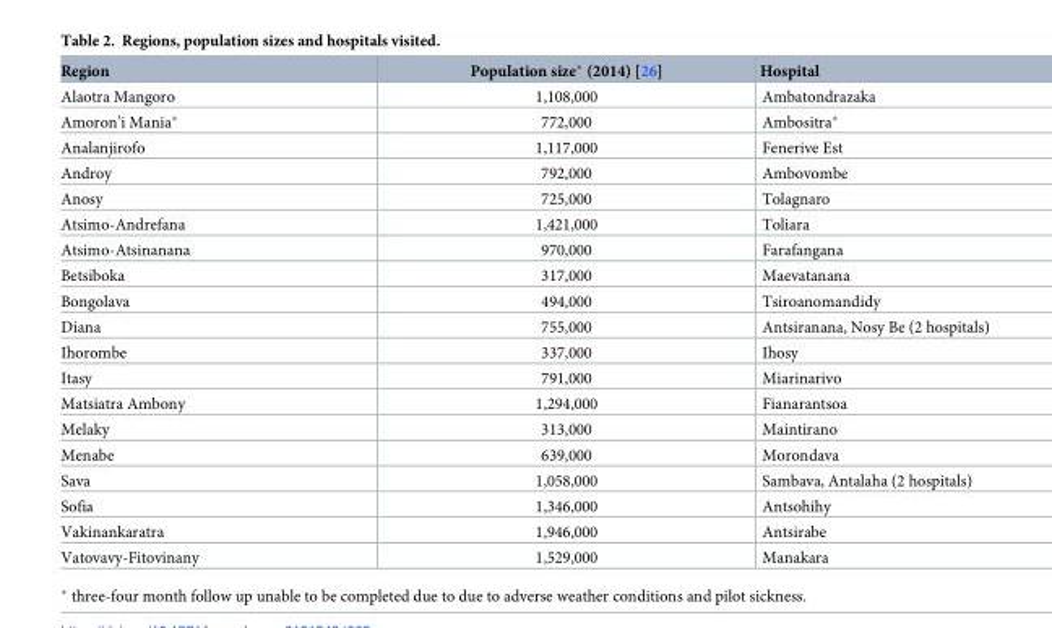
<table><thead><tr><td>Region</td><td>Population size* (2014) [26]</td><td>Hospital</td></tr></thead><tbody><tr><td>Alaotra Mangoro</td><td>1,108,000</td><td>Ambatondrazaka</td></tr><tr><td>Amoron’i Mania*</td><td>772,000</td><td>Ambositra*</td></tr><tr><td>Analanjirofo</td><td>1,117,000</td><td>Fenerive Est</td></tr><tr><td>Androy</td><td>792,000</td><td>Ambovombe</td></tr><tr><td>Anosy</td><td>725,000</td><td>Tolagnaro</td></tr><tr><td>Atsimo-Andrefana</td><td>1,421,000</td><td>Toliara</td></tr><tr><td>Atsimo-Atsinanana</td><td>970,000</td><td>Farafangana</td></tr><tr><td>Betsiboka</td><td>317,000</td><td>Maevatanana</td></tr><tr><td>Bongolava</td><td>494,000</td><td>Tsiroanomandidy</td></tr><tr><td>Diana</td><td>755,000</td><td>Antsiranana, Nosy Be (2 hospitals)</td></tr><tr><td>Ihorombe</td><td>337,000</td><td>Ihosy</td></tr><tr><td>Itasy</td><td>791,000</td><td>Miarinarivo</td></tr><tr><td>Matsiatra Ambony</td><td>1,294,000</td><td>Fianarantsoa</td></tr><tr><td>Melaky</td><td>313,000</td><td>Maintirano</td></tr><tr><td>Menabe</td><td>639,000</td><td>Morondava</td></tr><tr><td>Sava</td><td>1,058,000</td><td>Sambava, Antalaha (2 hospitals)</td></tr><tr><td>Sofia</td><td>1,346,000</td><td>Antsohihy</td></tr><tr><td>Vakinankaratra</td><td>1,946,000</td><td>Antsirabe</td></tr><tr><td>Vatovavy-Fitovinany</td><td>1,529,000</td><td>Manakara</td></tr></tbody></table>